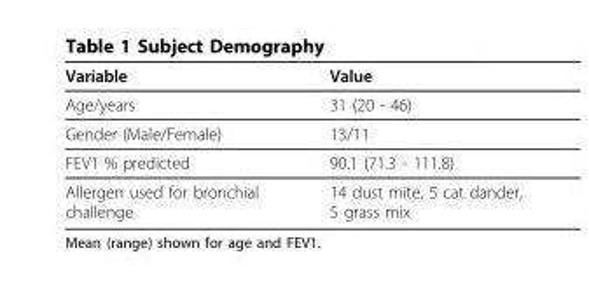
<table><thead><tr><td>Variable</td><td>Value</td></tr></thead><tbody><tr><td>Age/years</td><td>31 (20 - 46)</td></tr><tr><td>Gender (Male/Female)</td><td>13/11</td></tr><tr><td>FEV1 % predicted</td><td>90.1 (71.3 - 111.8)</td></tr><tr><td>Allergen used for bronchial challenge</td><td>14 dust mite, 5 cat dander, 5 grass mix</td></tr></tbody></table>